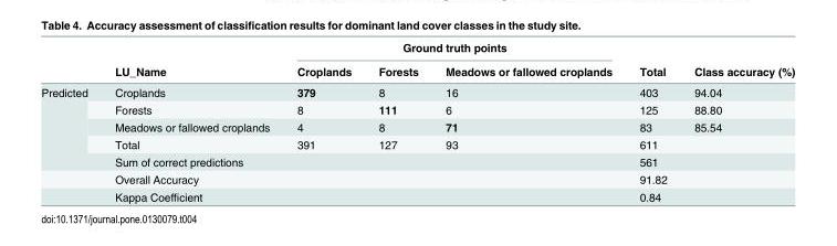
<table><thead><tr><td rowspan="2"></td><td rowspan="2">LU_Name</td><td colspan="3">Ground truth points</td><td rowspan="2">Total</td><td rowspan="2">Class accuracy (%)</td></tr><tr><td>Croplands</td><td>Forests</td><td>Meadows or fallowed croplands</td></tr></thead><tbody><tr><td rowspan="7">Predicted</td><td>Croplands</td><td>379</td><td>8</td><td>16</td><td>403</td><td>94.04</td></tr><tr><td>Forests</td><td>8</td><td>111</td><td>6</td><td>125</td><td>88.80</td></tr><tr><td>Meadows or fallowed croplands</td><td>4</td><td>8</td><td>71</td><td>83</td><td>85.54</td></tr><tr><td>Total</td><td>391</td><td>127</td><td>93</td><td>611</td><td></td></tr><tr><td>Sum of correct predictions</td><td></td><td></td><td></td><td>561</td><td></td></tr><tr><td>Overall Accuracy</td><td></td><td></td><td></td><td>91.82</td><td></td></tr><tr><td>Kappa Coefficient</td><td></td><td></td><td></td><td>0.84</td><td></td></tr></tbody></table>